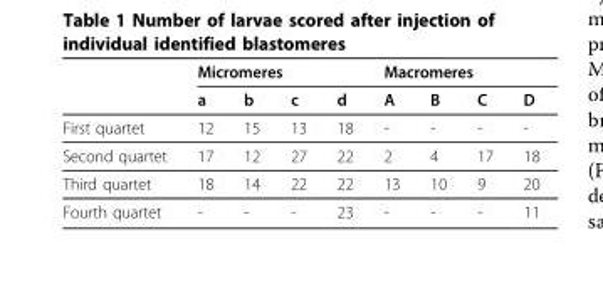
<table><thead><tr><td rowspan="2"></td><td colspan="4">Micromeres</td><td colspan="4">Macromeres</td></tr><tr><td>a</td><td>b</td><td>c</td><td>d</td><td>A</td><td>B</td><td>C</td><td>D</td></tr></thead><tbody><tr><td>First quartet</td><td>12</td><td>15</td><td>13</td><td>18</td><td>-</td><td>-</td><td>-</td><td>-</td></tr><tr><td>Second quartet</td><td>17</td><td>12</td><td>27</td><td>22</td><td>2</td><td>4</td><td>17</td><td>18</td></tr><tr><td>Third quartet</td><td>18</td><td>14</td><td>22</td><td>22</td><td>13</td><td>10</td><td>9</td><td>20</td></tr><tr><td>Fourth quartet</td><td>-</td><td>-</td><td>-</td><td>23</td><td>-</td><td>-</td><td>-</td><td>11</td></tr></tbody></table>